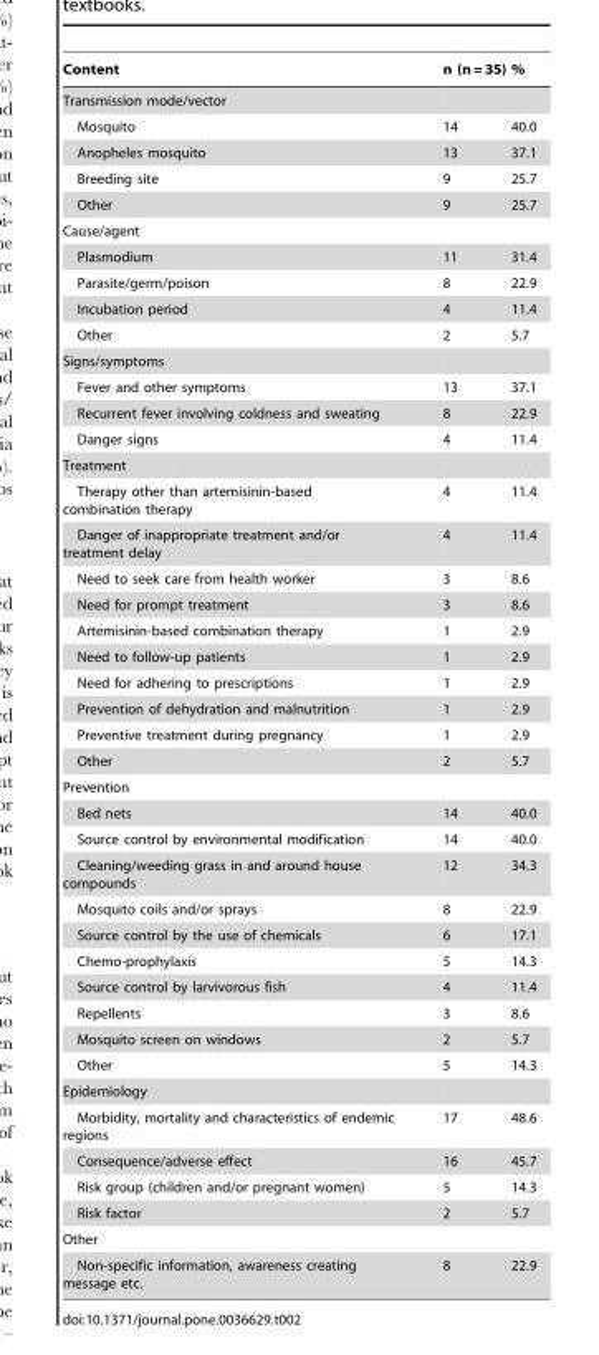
<table><thead><tr><td>Content</td><td>n (n = 35)</td><td>%</td></tr></thead><tbody><tr><td colspan="3">Transmission mode/vector</td></tr><tr><td>Mosquito</td><td>14</td><td>40.0</td></tr><tr><td>Anopheles mosquito</td><td>13</td><td>37.1</td></tr><tr><td>Breeding site</td><td>9</td><td>25.7</td></tr><tr><td>Other</td><td>9</td><td>25.7</td></tr><tr><td colspan="3">Cause/agent</td></tr><tr><td>Plasmodium</td><td>11</td><td>31.4</td></tr><tr><td>Parasite/germ/poison</td><td>8</td><td>22.9</td></tr><tr><td>Incubation period</td><td>4</td><td>11.4</td></tr><tr><td>Other</td><td>2</td><td>5.7</td></tr><tr><td colspan="3">Signs/symptoms</td></tr><tr><td>Fever and other symptoms</td><td>13</td><td>37.1</td></tr><tr><td>Recurrent fever involving coldness and sweating</td><td>8</td><td>22.9</td></tr><tr><td>Danger signs</td><td>4</td><td>11.4</td></tr><tr><td colspan="3">Treatment</td></tr><tr><td>Therapy other than artemisinin-based combination therapy</td><td>4</td><td>11.4</td></tr><tr><td>Danger of inappropriate treatment and/or treatment delay</td><td>4</td><td>11.4</td></tr><tr><td>Need to seek care from health worker</td><td>3</td><td>8.6</td></tr><tr><td>Need for prompt treatment</td><td>3</td><td>8.6</td></tr><tr><td>Artemisinin-based combination therapy</td><td>1</td><td>2.9</td></tr><tr><td>Need to follow-up patients</td><td>1</td><td>2.9</td></tr><tr><td>Need for adhering to prescriptions</td><td>1</td><td>2.9</td></tr><tr><td>Prevention of dehydration and malnutrition</td><td>1</td><td>2.9</td></tr><tr><td>Preventive treatment during pregnancy</td><td>1</td><td>2.9</td></tr><tr><td>Other</td><td>2</td><td>5.7</td></tr><tr><td colspan="3">Prevention</td></tr><tr><td>Bed nets</td><td>14</td><td>40.0</td></tr><tr><td>Source control by environmental modification</td><td>14</td><td>40.0</td></tr><tr><td>Cleaning/weeding grass in and around house compounds</td><td>12</td><td>34.3</td></tr><tr><td>Mosquito coils and/or sprays</td><td>8</td><td>22.9</td></tr><tr><td>Source control by the use of chemicals</td><td>6</td><td>17.1</td></tr><tr><td>Chemo-prophylaxis</td><td>5</td><td>14.3</td></tr><tr><td>Source control by larvivorous fish</td><td>4</td><td>11.4</td></tr><tr><td>Repellents</td><td>3</td><td>8.6</td></tr><tr><td>Mosquito screen on windows</td><td>2</td><td>5.7</td></tr><tr><td>Other</td><td>5</td><td>14.3</td></tr><tr><td colspan="3">Epidemiology</td></tr><tr><td>Morbidity, mortality and characteristics of endemic regions</td><td>17</td><td>48.6</td></tr><tr><td>Consequence/adverse effect</td><td>16</td><td>45.7</td></tr><tr><td>Risk group (children and/or pregnant women)</td><td>5</td><td>14.3</td></tr><tr><td>Risk factor</td><td>2</td><td>5.7</td></tr><tr><td colspan="3">Other</td></tr><tr><td>Non-specific information, awareness creating message etc.</td><td>8</td><td>22.9</td></tr></tbody></table>